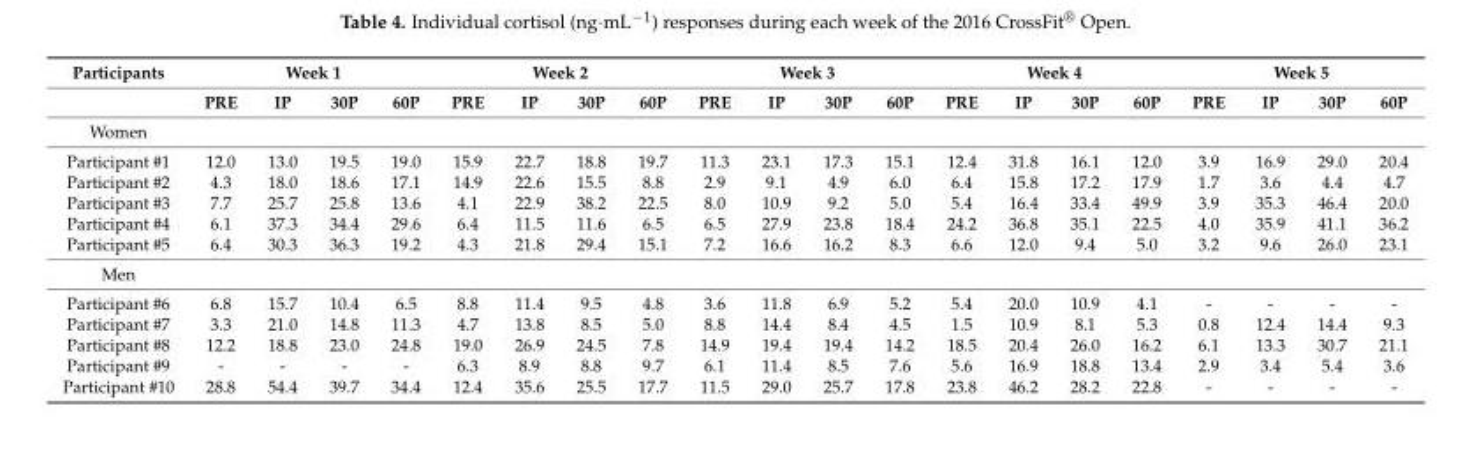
<table><thead><tr><td rowspan="2">Participants</td><td colspan="4">Week 1</td><td colspan="4">Week 2</td><td colspan="4">Week 3</td><td colspan="4">Week 4</td><td colspan="4">Week 5</td></tr><tr><td>PRE</td><td>IP</td><td>30P</td><td>60P</td><td>PRE</td><td>IP</td><td>30P</td><td>60P</td><td>PRE</td><td>IP</td><td>30P</td><td>60P</td><td>PRE</td><td>IP</td><td>30P</td><td>60P</td><td>PRE</td><td>IP</td><td>30P</td><td>60P</td></tr></thead><tbody><tr><td colspan="21">Women</td></tr><tr><td>Participant #1</td><td>12.0</td><td>13.0</td><td>19.5</td><td>19.0</td><td>15.9</td><td>22.7</td><td>18.8</td><td>19.7</td><td>11.3</td><td>23.1</td><td>17.3</td><td>15.1</td><td>12.4</td><td>31.8</td><td>16.1</td><td>12.0</td><td>3.9</td><td>16.9</td><td>29.0</td><td>20.4</td></tr><tr><td>Participant #2</td><td>4.3</td><td>18.0</td><td>18.6</td><td>17.1</td><td>14.9</td><td>22.6</td><td>15.5</td><td>8.8</td><td>2.9</td><td>9.1</td><td>4.9</td><td>6.0</td><td>6.4</td><td>15.8</td><td>17.2</td><td>17.9</td><td>1.7</td><td>3.6</td><td>4.4</td><td>4.7</td></tr><tr><td>Participant #3</td><td>7.7</td><td>25.7</td><td>25.8</td><td>13.6</td><td>4.1</td><td>22.9</td><td>38.2</td><td>22.5</td><td>8.0</td><td>10.9</td><td>9.2</td><td>5.0</td><td>5.4</td><td>16.4</td><td>33.4</td><td>49.9</td><td>3.9</td><td>35.3</td><td>46.4</td><td>20.0</td></tr><tr><td>Participant #4</td><td>6.1</td><td>37.3</td><td>34.4</td><td>29.6</td><td>6.4</td><td>11.5</td><td>11.6</td><td>6.5</td><td>6.5</td><td>27.9</td><td>23.8</td><td>18.4</td><td>24.2</td><td>36.8</td><td>35.1</td><td>22.5</td><td>4.0</td><td>35.9</td><td>41.1</td><td>36.2</td></tr><tr><td>Participant #5</td><td>6.4</td><td>30.3</td><td>36.3</td><td>19.2</td><td>4.3</td><td>21.8</td><td>29.4</td><td>15.1</td><td>7.2</td><td>16.6</td><td>16.2</td><td>8.3</td><td>6.6</td><td>12.0</td><td>9.4</td><td>5.0</td><td>3.2</td><td>9.6</td><td>26.0</td><td>23.1</td></tr><tr><td colspan="21">Men</td></tr><tr><td>Participant #6</td><td>6.8</td><td>15.7</td><td>10.4</td><td>6.5</td><td>8.8</td><td>11.4</td><td>9.5</td><td>4.8</td><td>3.6</td><td>11.8</td><td>6.9</td><td>5.2</td><td>5.4</td><td>20.0</td><td>10.9</td><td>4.1</td><td>-</td><td>-</td><td>-</td><td>-</td></tr><tr><td>Participant #7</td><td>3.3</td><td>21.0</td><td>14.8</td><td>11.3</td><td>4.7</td><td>13.8</td><td>8.5</td><td>5.0</td><td>8.8</td><td>14.4</td><td>8.4</td><td>4.5</td><td>1.5</td><td>10.9</td><td>8.1</td><td>5.3</td><td>0.8</td><td>12.4</td><td>14.4</td><td>9.3</td></tr><tr><td>Participant #8</td><td>12.2</td><td>18.8</td><td>23.0</td><td>24.8</td><td>19.0</td><td>26.9</td><td>24.5</td><td>7.8</td><td>14.9</td><td>19.4</td><td>19.4</td><td>14.2</td><td>18.5</td><td>20.4</td><td>26.0</td><td>16.2</td><td>6.1</td><td>13.3</td><td>30.7</td><td>21.1</td></tr><tr><td>Participant #9</td><td>-</td><td>-</td><td>-</td><td>-</td><td>6.3</td><td>8.9</td><td>8.8</td><td>9.7</td><td>6.1</td><td>11.4</td><td>8.5</td><td>7.6</td><td>5.6</td><td>16.9</td><td>18.8</td><td>13.4</td><td>2.9</td><td>3.4</td><td>5.4</td><td>3.6</td></tr><tr><td>Participant #10</td><td>28.8</td><td>54.4</td><td>39.7</td><td>34.4</td><td>12.4</td><td>35.6</td><td>25.5</td><td>17.7</td><td>11.5</td><td>29.0</td><td>25.7</td><td>17.8</td><td>23.8</td><td>46.2</td><td>28.2</td><td>22.8</td><td>-</td><td>-</td><td>-</td><td>-</td></tr></tbody></table>